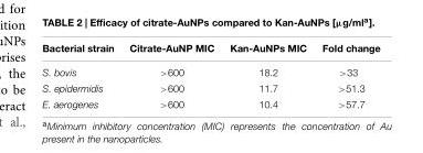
<table><thead><tr><td>Bacterial strain</td><td>Citrate-AuNP MIC</td><td>Kan-AuNPs MIC</td><td>Fold change</td></tr></thead><tbody><tr><td>S. bovis</td><td>&gt;600</td><td>18.2</td><td>&gt;33</td></tr><tr><td>S. epidermidis</td><td>&gt;600</td><td>11.7</td><td>&gt;51.3</td></tr><tr><td>E. aerogenes</td><td>&gt;600</td><td>10.4</td><td>&gt;57.7</td></tr></tbody></table>